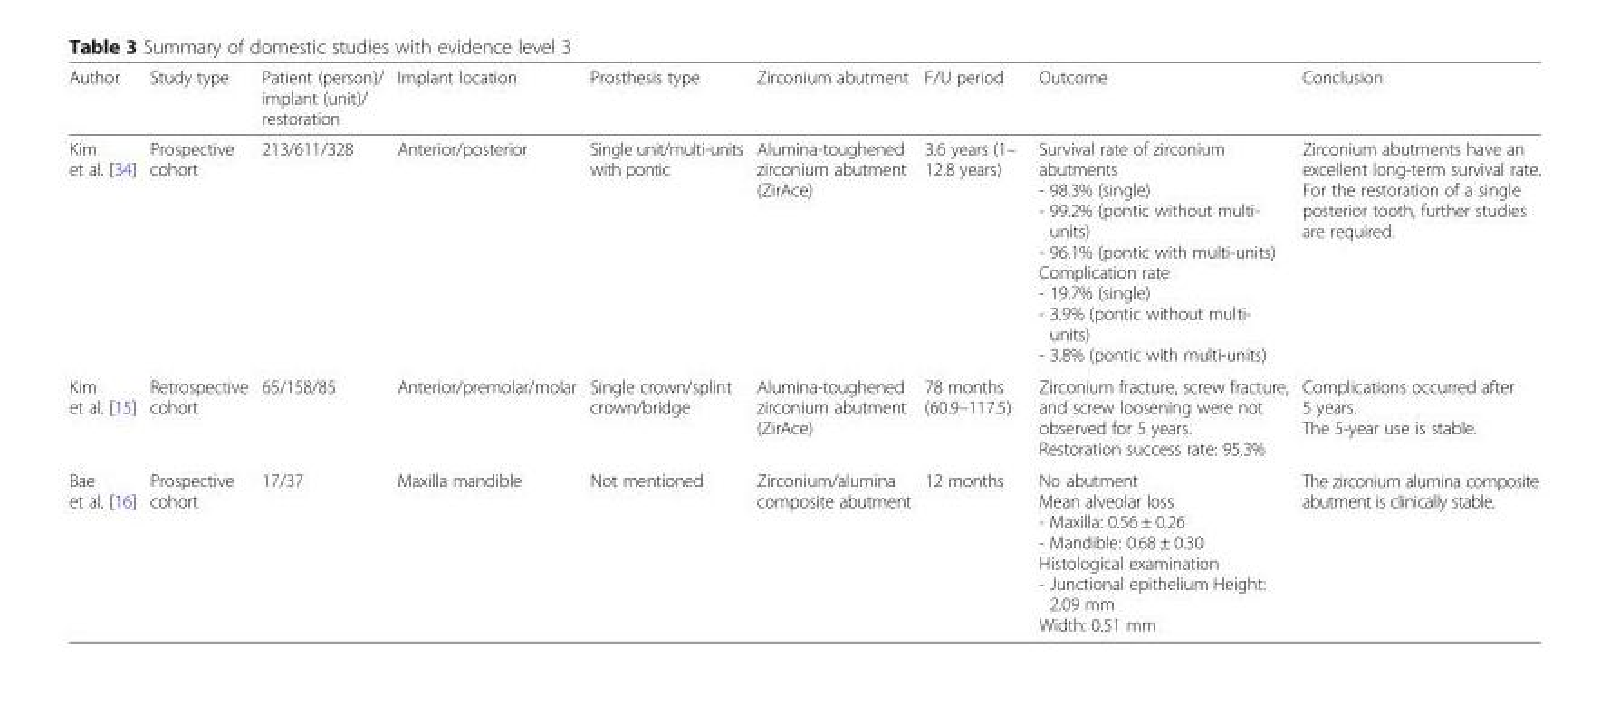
<table><thead><tr><td>Author</td><td>Study type</td><td>Patient (person)/ implant (unit)/ restoration</td><td>Implant location</td><td>Prosthesis type</td><td>Zirconium abutment</td><td>F/U period</td><td>Outcome</td><td>Conclusion</td></tr></thead><tbody><tr><td>Kim et al. [34]</td><td>Prospective cohort</td><td>213/611/328</td><td>Anterior/posterior</td><td>Single unit/multi-units with pontic</td><td>Alumina-toughened zirconium abutment (ZirAce)</td><td>3.6 years (1– 12.8 years)</td><td>Survival rate of zirconium abutments - 98.3% (single) - 99.2% (pontic without multi- units) - 96.1% (pontic with multi-units) Complication rate - 19.7% (single) - 3.9% (pontic without multi- units) - 3.8% (pontic with multi-units)</td><td>Zirconium abutments have an excellent long-term survival rate. For the restoration of a single posterior tooth, further studies are required.</td></tr><tr><td>Kim et al. [15]</td><td>Retrospective cohort</td><td>65/158/85</td><td>Anterior/premolar/molar</td><td>Single crown/splint crown/bridge</td><td>Alumina-toughened zirconium abutment (ZirAce)</td><td>78 months (60.9–117.5)</td><td>Zirconium fracture, screw fracture, and screw loosening were not observed for 5 years. Restoration success rate: 95.3%</td><td>Complications occurred after 5 years. The 5-year use is stable.</td></tr><tr><td>Bae et al. [16]</td><td>Prospective cohort</td><td>17/37</td><td>Maxilla mandible</td><td>Not mentioned</td><td>Zirconium/alumina composite abutment</td><td>12 months</td><td>No abutment Mean alveolar loss - Maxilla: 0.56 ± 0.26 - Mandible: 0.68 ± 0.30 Histological examination - Junctional epithelium Height: 2.09 mm Width: 0.51 mm</td><td>The zirconium alumina composite abutment is clinically stable.</td></tr></tbody></table>